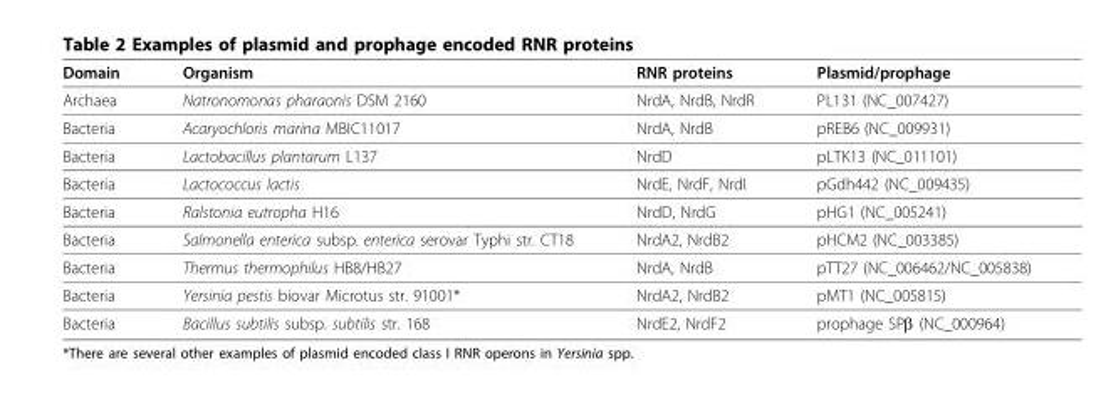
<table><thead><tr><td>Domain</td><td>Organism</td><td>RNR proteins</td><td>Plasmid/prophage</td></tr></thead><tbody><tr><td>Archaea</td><td>Natronomonas pharaonis DSM 2160</td><td>NrdA, NrdB, NrdR</td><td>PL131 (NC_007427)</td></tr><tr><td>Bacteria</td><td>Acaryochloris marina MBIC11017</td><td>NrdA, NrdB</td><td>pREB6 (NC_009931)</td></tr><tr><td>Bacteria</td><td>Lactobacillus plantarum L137</td><td>NrdD</td><td>pLTK13 (NC_011101)</td></tr><tr><td>Bacteria</td><td>Lactococcus lactis</td><td>NrdE, NrdF, NrdI</td><td>pGdh442 (NC_009435)</td></tr><tr><td>Bacteria</td><td>Ralstonia eutropha H16</td><td>NrdD, NrdG</td><td>pHG1 (NC_005241)</td></tr><tr><td>Bacteria</td><td>Salmonella enterica subsp. enterica serovar Typhi str. CT18</td><td>NrdA2, NrdB2</td><td>pHCM2 (NC_003385)</td></tr><tr><td>Bacteria</td><td>Thermus thermophilus HB8/HB27</td><td>NrdA, NrdB</td><td>pTT27 (NC_006462/NC_005838)</td></tr><tr><td>Bacteria</td><td>Yersinia pestis biovar Microtus str. 91001*</td><td>NrdA2, NrdB2</td><td>pMT1 (NC_005815)</td></tr><tr><td>Bacteria</td><td>Bacillus subtilis subsp. subtilis str. 168</td><td>NrdE2, NrdF2</td><td>prophage SPβ (NC_000964)</td></tr></tbody></table>